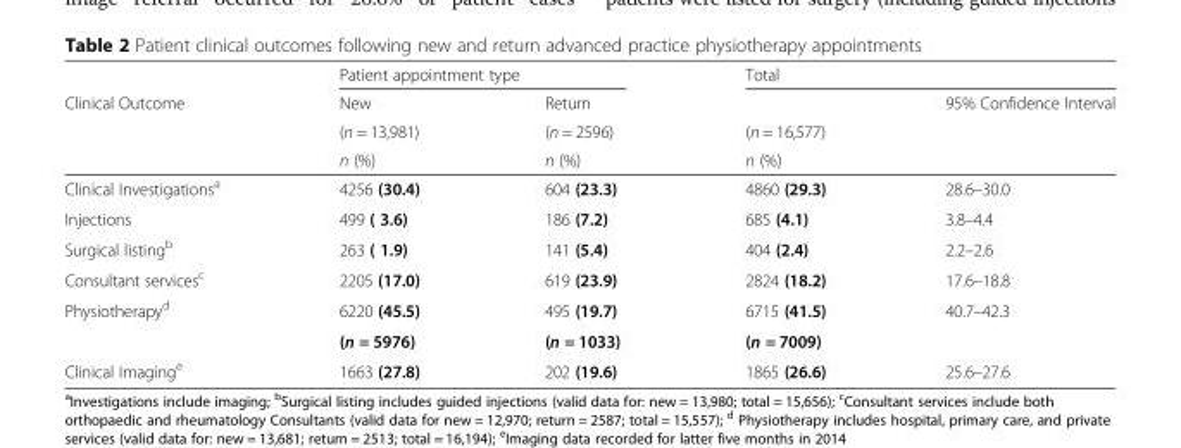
<table><thead><tr><td rowspan="4">Clinical Outcome</td><td colspan="2">Patient appointment type</td><td colspan="2">Total</td></tr><tr><td rowspan="3">New (n = 13,981) n (%)</td><td rowspan="3">Return (n = 2596) n (%)</td><td rowspan="3">(n = 16,577) n (%)</td><td rowspan="3">95% Confidence Interval</td></tr><tr></tr><tr></tr></thead><tbody><tr><td>Clinical Investigations<sup>a</sup></td><td>4256 (30.4)</td><td>604 (23.3)</td><td>4860 (29.3)</td><td>28.6–30.0</td></tr><tr><td>Injections</td><td>499 ( 3.6)</td><td>186 (7.2)</td><td>685 (4.1)</td><td>3.8–4.4</td></tr><tr><td>Surgical listing<sup>b</sup></td><td>263 ( 1.9)</td><td>141 (5.4)</td><td>404 (2.4)</td><td>2.2–2.6</td></tr><tr><td>Consultant services<sup>c</sup></td><td>2205 (17.0)</td><td>619 (23.9)</td><td>2824 (18.2)</td><td>17.6–18.8</td></tr><tr><td rowspan="2">Physiotherapy<sup>d</sup></td><td>6220 (45.5)</td><td>495 (19.7)</td><td>6715 (41.5)</td><td>40.7–42.3</td></tr><tr><td>(n = 5976)</td><td>(n = 1033)</td><td>(n = 7009)</td><td></td></tr><tr><td>Clinical Imaging<sup>e</sup></td><td>1663 (27.8)</td><td>202 (19.6)</td><td>1865 (26.6)</td><td>25.6–27.6</td></tr></tbody></table>